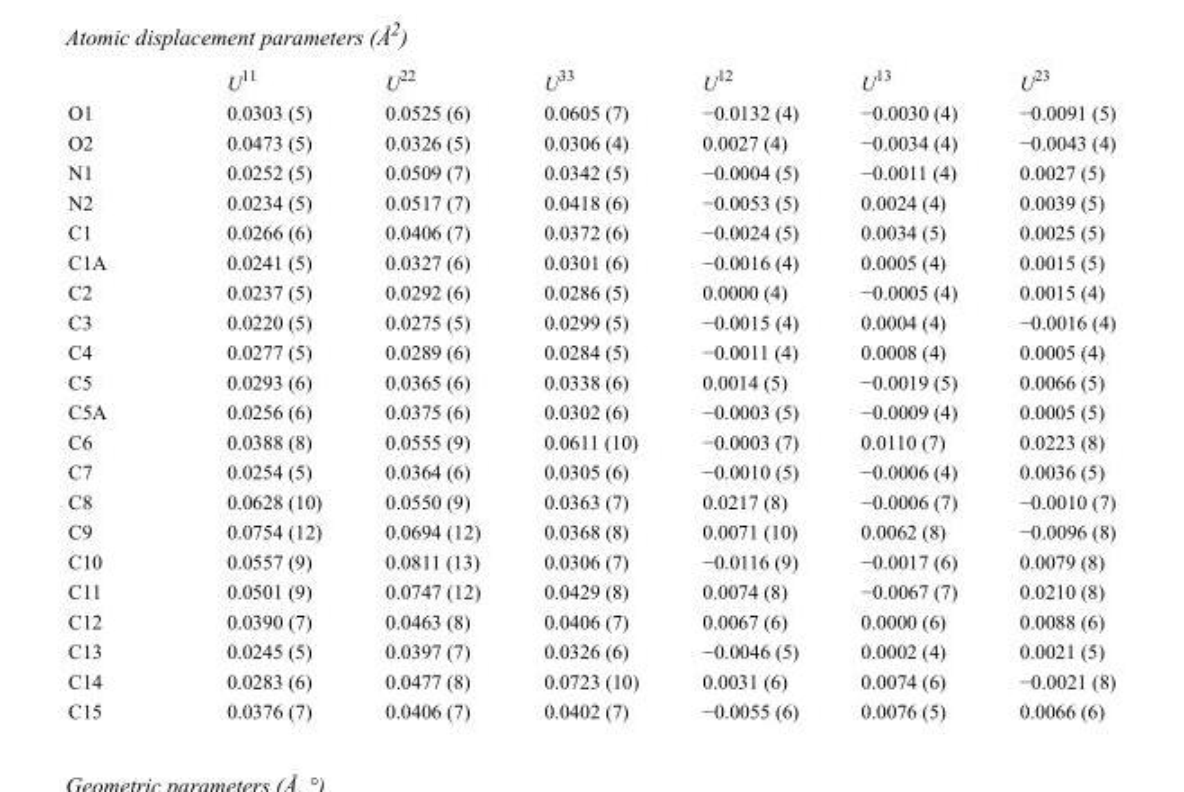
<table><thead><tr><td></td><td>U<sup>11</sup></td><td>U<sup>22</sup></td><td>U<sup>33</sup></td><td>U<sup>12</sup></td><td>U<sup>13</sup></td><td>U<sup>23</sup></td></tr></thead><tbody><tr><td>O1</td><td>0.0303 (5)</td><td>0.0525 (6)</td><td>0.0605 (7)</td><td>−0.0132 (4)</td><td>−0.0030 (4)</td><td>−0.0091 (5)</td></tr><tr><td>O2</td><td>0.0473 (5)</td><td>0.0326 (5)</td><td>0.0306 (4)</td><td>0.0027 (4)</td><td>−0.0034 (4)</td><td>−0.0043 (4)</td></tr><tr><td>N1</td><td>0.0252 (5)</td><td>0.0509 (7)</td><td>0.0342 (5)</td><td>−0.0004 (5)</td><td>−0.0011 (4)</td><td>0.0027 (5)</td></tr><tr><td>N2</td><td>0.0234 (5)</td><td>0.0517 (7)</td><td>0.0418 (6)</td><td>−0.0053 (5)</td><td>0.0024 (4)</td><td>0.0039 (5)</td></tr><tr><td>C1</td><td>0.0266 (6)</td><td>0.0406 (7)</td><td>0.0372 (6)</td><td>−0.0024 (5)</td><td>0.0034 (5)</td><td>0.0025 (5)</td></tr><tr><td>C1A</td><td>0.0241 (5)</td><td>0.0327 (6)</td><td>0.0301 (6)</td><td>−0.0016 (4)</td><td>0.0005 (4)</td><td>0.0015 (5)</td></tr><tr><td>C2</td><td>0.0237 (5)</td><td>0.0292 (6)</td><td>0.0286 (5)</td><td>0.0000 (4)</td><td>−0.0005 (4)</td><td>0.0015 (4)</td></tr><tr><td>C3</td><td>0.0220 (5)</td><td>0.0275 (5)</td><td>0.0299 (5)</td><td>−0.0015 (4)</td><td>0.0004 (4)</td><td>−0.0016 (4)</td></tr><tr><td>C4</td><td>0.0277 (5)</td><td>0.0289 (6)</td><td>0.0284 (5)</td><td>−0.0011 (4)</td><td>0.0008 (4)</td><td>0.0005 (4)</td></tr><tr><td>C5</td><td>0.0293 (6)</td><td>0.0365 (6)</td><td>0.0338 (6)</td><td>0.0014 (5)</td><td>−0.0019 (5)</td><td>0.0066 (5)</td></tr><tr><td>C5A</td><td>0.0256 (6)</td><td>0.0375 (6)</td><td>0.0302 (6)</td><td>−0.0003 (5)</td><td>−0.0009 (4)</td><td>0.0005 (5)</td></tr><tr><td>C6</td><td>0.0388 (8)</td><td>0.0555 (9)</td><td>0.0611 (10)</td><td>−0.0003 (7)</td><td>0.0110 (7)</td><td>0.0223 (8)</td></tr><tr><td>C7</td><td>0.0254 (5)</td><td>0.0364 (6)</td><td>0.0305 (6)</td><td>−0.0010 (5)</td><td>−0.0006 (4)</td><td>0.0036 (5)</td></tr><tr><td>C8</td><td>0.0628 (10)</td><td>0.0550 (9)</td><td>0.0363 (7)</td><td>0.0217 (8)</td><td>−0.0006 (7)</td><td>−0.0010 (7)</td></tr><tr><td>C9</td><td>0.0754 (12)</td><td>0.0694 (12)</td><td>0.0368 (8)</td><td>0.0071 (10)</td><td>0.0062 (8)</td><td>−0.0096 (8)</td></tr><tr><td>C10</td><td>0.0557 (9)</td><td>0.0811 (13)</td><td>0.0306 (7)</td><td>−0.0116 (9)</td><td>−0.0017 (6)</td><td>0.0079 (8)</td></tr><tr><td>C11</td><td>0.0501 (9)</td><td>0.0747 (12)</td><td>0.0429 (8)</td><td>0.0074 (8)</td><td>−0.0067 (7)</td><td>0.0210 (8)</td></tr><tr><td>C12</td><td>0.0390 (7)</td><td>0.0463 (8)</td><td>0.0406 (7)</td><td>0.0067 (6)</td><td>0.0000 (6)</td><td>0.0088 (6)</td></tr><tr><td>C13</td><td>0.0245 (5)</td><td>0.0397 (7)</td><td>0.0326 (6)</td><td>−0.0046 (5)</td><td>0.0002 (4)</td><td>0.0021 (5)</td></tr><tr><td>C14</td><td>0.0283 (6)</td><td>0.0477 (8)</td><td>0.0723 (10)</td><td>0.0031 (6)</td><td>0.0074 (6)</td><td>−0.0021 (8)</td></tr><tr><td>C15</td><td>0.0376 (7)</td><td>0.0406 (7)</td><td>0.0402 (7)</td><td>−0.0055 (6)</td><td>0.0076 (5)</td><td>0.0066 (6)</td></tr></tbody></table>